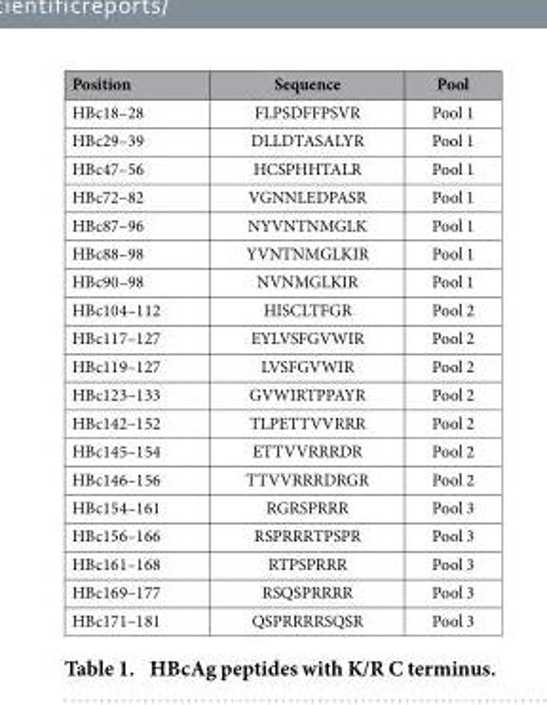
<table><thead><tr><td>Position</td><td>Sequence</td><td>Pool</td></tr></thead><tbody><tr><td>HBc18–28</td><td>FLPSDFFPSVR</td><td>Pool 1</td></tr><tr><td>HBc29–39</td><td>DLLDTASALYR</td><td>Pool 1</td></tr><tr><td>HBc47–56</td><td>HCSPHHTALR</td><td>Pool 1</td></tr><tr><td>HBc72–82</td><td>VGNNLEDPASR</td><td>Pool 1</td></tr><tr><td>HBc87–96</td><td>NYVNTNMGLK</td><td>Pool 1</td></tr><tr><td>HBc88–98</td><td>YVNTNMGLKIR</td><td>Pool 1</td></tr><tr><td>HBc90–98</td><td>NVNMGLKIR</td><td>Pool 1</td></tr><tr><td>HBc104–112</td><td>HISCLTFGR</td><td>Pool 2</td></tr><tr><td>HBc117–127</td><td>EYLVSFGVWIR</td><td>Pool 2</td></tr><tr><td>HBc119–127</td><td>LVSFGVWIR</td><td>Pool 2</td></tr><tr><td>HBc123–133</td><td>GVWIRTPPAYR</td><td>Pool 2</td></tr><tr><td>HBc142–152</td><td>TLPETTVVRRR</td><td>Pool 2</td></tr><tr><td>HBc145–154</td><td>ETTVVRRRDR</td><td>Pool 2</td></tr><tr><td>HBc146–156</td><td>TTVVRRRDRGR</td><td>Pool 2</td></tr><tr><td>HBc154–161</td><td>RGRSPRRR</td><td>Pool 3</td></tr><tr><td>HBc156–166</td><td>RSPRRRTPSPR</td><td>Pool 3</td></tr><tr><td>HBc161–168</td><td>RTPSPRRR</td><td>Pool 3</td></tr><tr><td>HBc169–177</td><td>RSQSPRRRR</td><td>Pool 3</td></tr><tr><td>HBc171–181</td><td>QSPRRRRSQSR</td><td>Pool 3</td></tr></tbody></table>